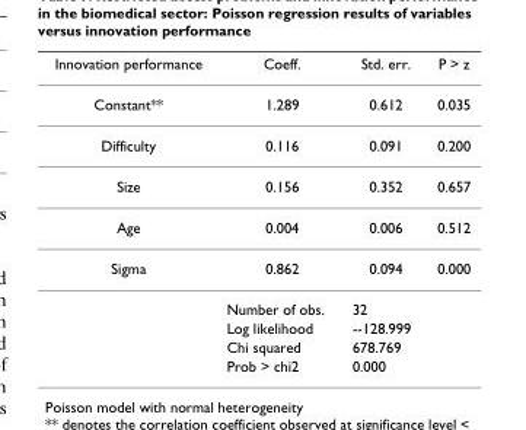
<table><thead><tr><td>Innovation performance</td><td>Coeff.</td><td>Std. err.</td><td>P &gt; z</td></tr></thead><tbody><tr><td>Constant**</td><td>1.289</td><td>0.612</td><td>0.035</td></tr><tr><td>Difficulty</td><td>0.116</td><td>0.091</td><td>0.200</td></tr><tr><td>Size</td><td>0.156</td><td>0.352</td><td>0.657</td></tr><tr><td>Age</td><td>0.004</td><td>0.006</td><td>0.512</td></tr><tr><td rowspan="5">Sigma</td><td>0.862</td><td>0.094</td><td>0.000</td></tr><tr><td>Number of obs.</td><td>32</td><td></td></tr><tr><td>Log likelihood</td><td>--128.999</td><td></td></tr><tr><td>Chi squared</td><td>678.769</td><td></td></tr><tr><td>Prob &gt; chi2</td><td>0.000</td><td></td></tr></tbody></table>